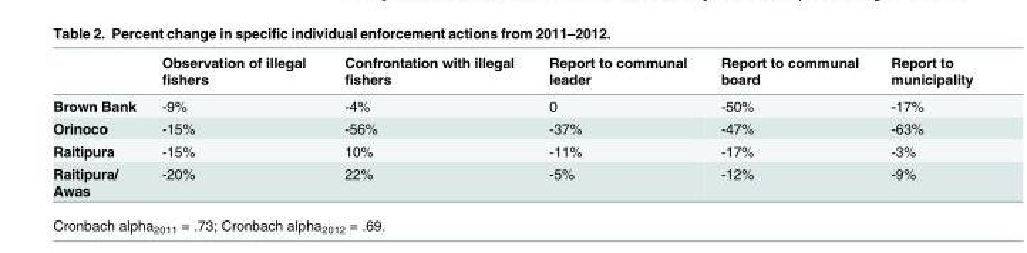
<table><thead><tr><td></td><td>Observation of illegal fishers</td><td>Confrontation with illegal fishers</td><td>Report to communal leader</td><td>Report to communal board</td><td>Report to municipality</td></tr></thead><tbody><tr><td>Brown Bank</td><td>-9%</td><td>-4%</td><td>0</td><td>-50%</td><td>-17%</td></tr><tr><td>Orinoco</td><td>-15%</td><td>-56%</td><td>-37%</td><td>-47%</td><td>-63%</td></tr><tr><td>Raitipura</td><td>-15%</td><td>10%</td><td>-11%</td><td>-17%</td><td>-3%</td></tr><tr><td>Raitipura/ Awas</td><td>-20%</td><td>22%</td><td>-5%</td><td>-12%</td><td>-9%</td></tr></tbody></table>